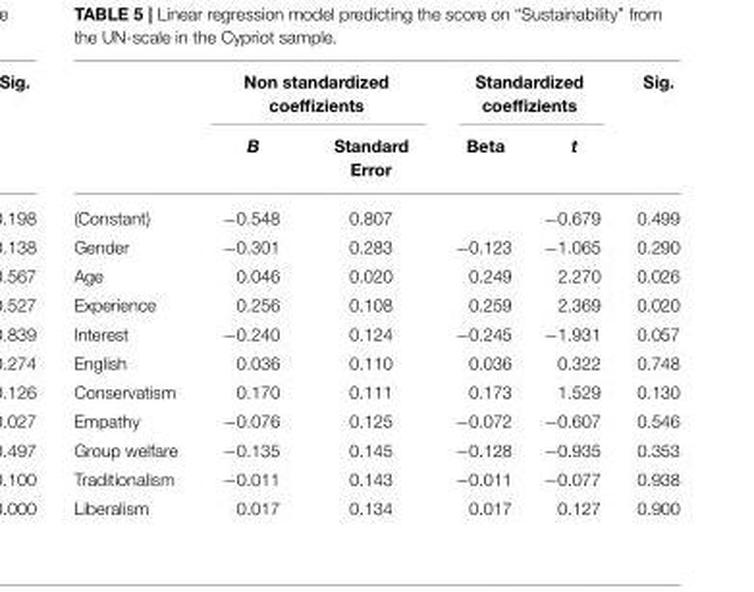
<table><thead><tr><td rowspan="2"></td><td colspan="2">Non standardized coeffizients</td><td colspan="2">Standardized coeffizients</td><td rowspan="2">Sig.</td></tr><tr><td>B</td><td>Standard Error</td><td>Beta</td><td>t</td></tr></thead><tbody><tr><td>(Constant)</td><td>−0.548</td><td>0.807</td><td></td><td>−0.679</td><td>0.499</td></tr><tr><td>Gender</td><td>−0.301</td><td>0.283</td><td>−0.123</td><td>−1.065</td><td>0.290</td></tr><tr><td>Age</td><td>0.046</td><td>0.020</td><td>0.249</td><td>2.270</td><td>0.026</td></tr><tr><td>Experience</td><td>0.256</td><td>0.108</td><td>0.259</td><td>2.369</td><td>0.020</td></tr><tr><td>Interest</td><td>−0.240</td><td>0.124</td><td>−0.245</td><td>−1.931</td><td>0.057</td></tr><tr><td>English</td><td>0.036</td><td>0.110</td><td>0.036</td><td>0.322</td><td>0.748</td></tr><tr><td>Conservatism</td><td>0.170</td><td>0.111</td><td>0.173</td><td>1.529</td><td>0.130</td></tr><tr><td>Empathy</td><td>−0.076</td><td>0.125</td><td>−0.072</td><td>−0.607</td><td>0.546</td></tr><tr><td>Group welfare</td><td>−0.135</td><td>0.145</td><td>−0.128</td><td>−0.935</td><td>0.353</td></tr><tr><td>Traditionalism</td><td>−0.011</td><td>0.143</td><td>−0.011</td><td>−0.077</td><td>0.938</td></tr><tr><td>Liberalism</td><td>0.017</td><td>0.134</td><td>0.017</td><td>0.127</td><td>0.900</td></tr></tbody></table>